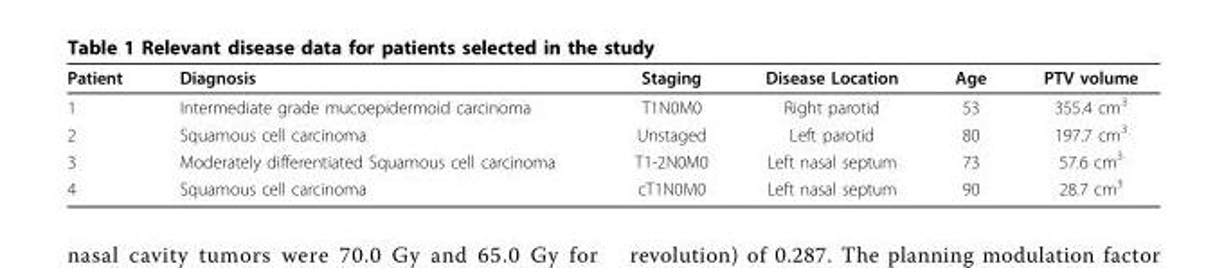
<table><thead><tr><td>Patient</td><td>Diagnosis</td><td>Staging</td><td>Disease Location</td><td>Age</td><td>PTV volume</td></tr></thead><tbody><tr><td>1</td><td>Intermediate grade mucoepidermoid carcinoma</td><td>T1N0M0</td><td>Right parotid</td><td>53</td><td>355.4 cm<sup>3</sup></td></tr><tr><td>2</td><td>Squamous cell carcinoma</td><td>Unstaged</td><td>Left parotid</td><td>80</td><td>197.7 cm<sup>3</sup></td></tr><tr><td>3</td><td>Moderately differentiated Squamous cell carcinoma</td><td>T1-2N0M0</td><td>Left nasal septum</td><td>73</td><td>57.6 cm<sup>3</sup></td></tr><tr><td>4</td><td>Squamous cell carcinoma</td><td>cT1N0M0</td><td>Left nasal septum</td><td>90</td><td>28.7 cm<sup>3</sup></td></tr></tbody></table>